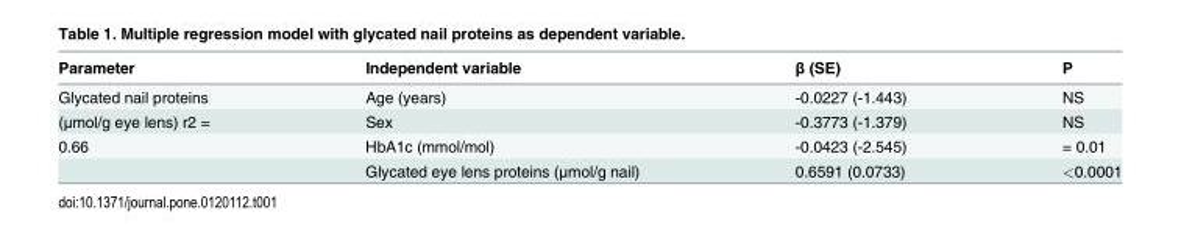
<table><thead><tr><td>Parameter</td><td>Independent variable</td><td>β (SE)</td><td>P</td></tr></thead><tbody><tr><td>Glycated nail proteins</td><td>Age (years)</td><td>-0.0227 (-1.443)</td><td>NS</td></tr><tr><td>(μmol/g eye lens) r2 =</td><td>Sex</td><td>-0.3773 (-1.379)</td><td>NS</td></tr><tr><td rowspan="2">0.66</td><td>HbA1c (mmol/mol)</td><td>-0.0423 (-2.545)</td><td>= 0.01</td></tr><tr><td>Glycated eye lens proteins (μmol/g nail)</td><td>0.6591 (0.0733)</td><td>&lt;0.0001</td></tr></tbody></table>